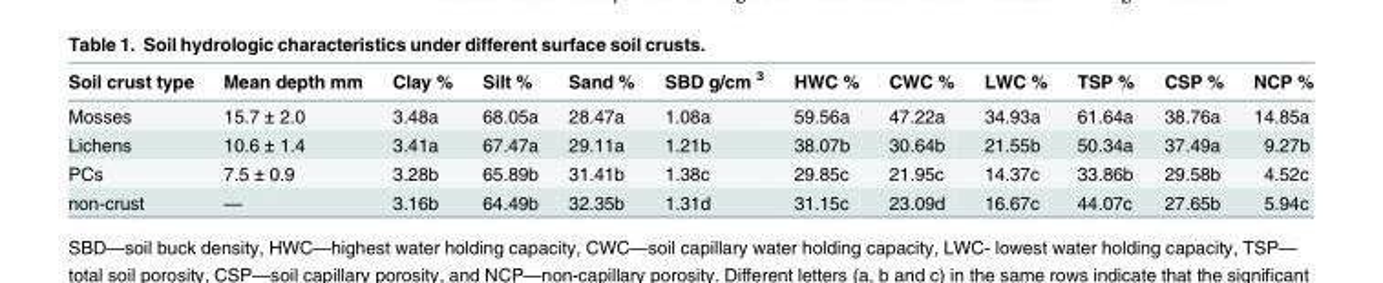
<table><thead><tr><td>Soil crust type</td><td>Mean depth mm</td><td>Clay %</td><td>Silt %</td><td>Sand %</td><td>SBD g/cm <sup>3</sup></td><td>HWC %</td><td>CWC %</td><td>LWC %</td><td>TSP %</td><td>CSP %</td><td>NCP %</td></tr></thead><tbody><tr><td>Mosses</td><td>15.7 ± 2.0</td><td>3.48a</td><td>68.05a</td><td>28.47a</td><td>1.08a</td><td>59.56a</td><td>47.22a</td><td>34.93a</td><td>61.64a</td><td>38.76a</td><td>14.85a</td></tr><tr><td>Lichens</td><td>10.6 ± 1.4</td><td>3.41a</td><td>67.47a</td><td>29.11a</td><td>1.21b</td><td>38.07b</td><td>30.64b</td><td>21.55b</td><td>50.34a</td><td>37.49a</td><td>9.27b</td></tr><tr><td>PCs</td><td>7.5 ± 0.9</td><td>3.28b</td><td>65.89b</td><td>31.41b</td><td>1.38c</td><td>29.85c</td><td>21.95c</td><td>14.37c</td><td>33.86b</td><td>29.58b</td><td>4.52c</td></tr><tr><td>non-crust</td><td>—</td><td>3.16b</td><td>64.49b</td><td>32.35b</td><td>1.31d</td><td>31.15c</td><td>23.09d</td><td>16.67c</td><td>44.07c</td><td>27.65b</td><td>5.94c</td></tr></tbody></table>